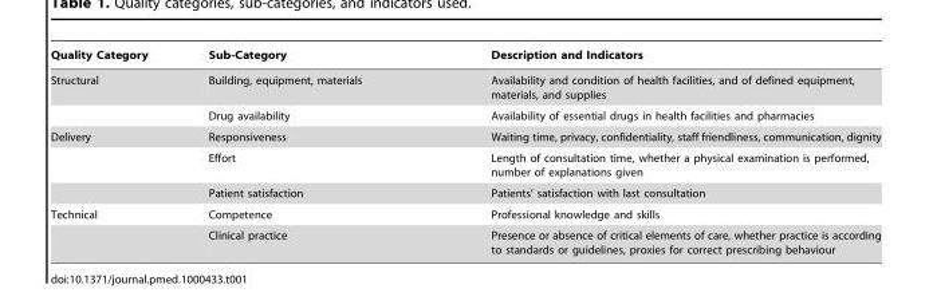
<table><thead><tr><td>Quality Category</td><td>Sub-Category</td><td>Description and Indicators</td></tr></thead><tbody><tr><td rowspan="2">Structural</td><td>Building, equipment, materials</td><td>Availability and condition of health facilities, and of defined equipment, materials, and supplies</td></tr><tr><td>Drug availability</td><td>Availability of essential drugs in health facilities and pharmacies</td></tr><tr><td rowspan="3">Delivery</td><td>Responsiveness</td><td>Waiting time, privacy, confidentiality, staff friendliness, communication, dignity</td></tr><tr><td>Effort</td><td>Length of consultation time, whether a physical examination is performed, number of explanations given</td></tr><tr><td>Patient satisfaction</td><td>Patients’ satisfaction with last consultation</td></tr><tr><td rowspan="2">Technical</td><td>Competence</td><td>Professional knowledge and skills</td></tr><tr><td>Clinical practice</td><td>Presence or absence of critical elements of care, whether practice is according to standards or guidelines, proxies for correct prescribing behaviour</td></tr></tbody></table>